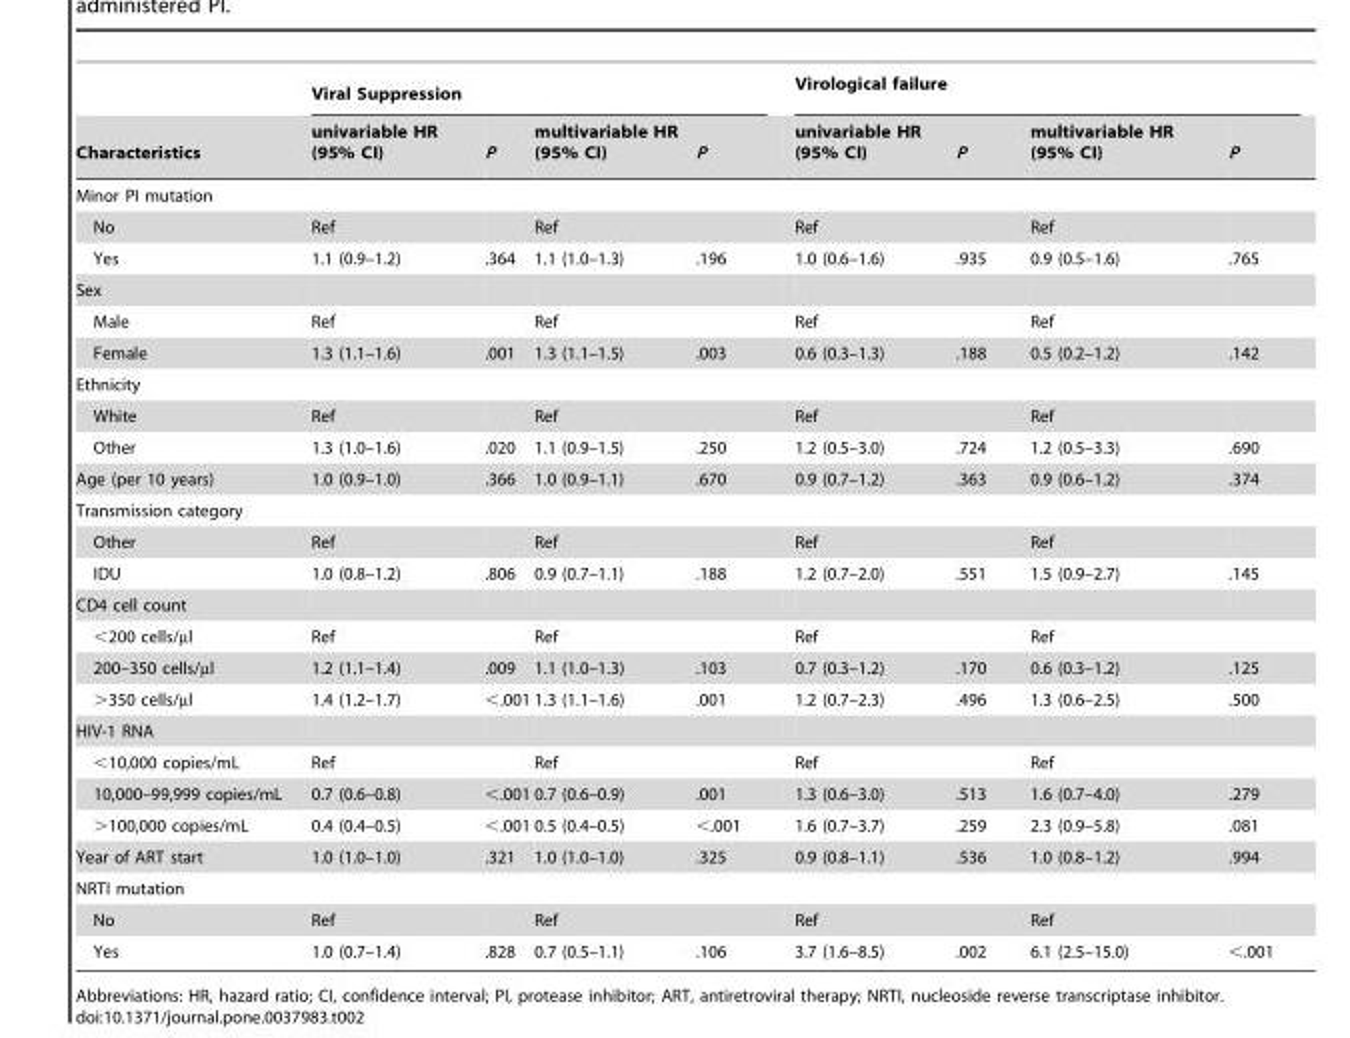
<table><thead><tr><td rowspan="2">Characteristics</td><td colspan="4">Viral Suppression</td><td colspan="4">Virological failure</td></tr><tr><td>univariable HR (95% CI)</td><td>P</td><td>multivariable HR (95% CI)</td><td>P</td><td>univariable HR (95% CI)</td><td>P</td><td>multivariable HR (95% CI)</td><td>P</td></tr></thead><tbody><tr><td colspan="9">Minor PI mutation</td></tr><tr><td>No</td><td>Ref</td><td></td><td>Ref</td><td></td><td>Ref</td><td></td><td>Ref</td><td></td></tr><tr><td>Yes</td><td>1.1 (0.9–1.2)</td><td>.364</td><td>1.1 (1.0–1.3)</td><td>.196</td><td>1.0 (0.6–1.6)</td><td>.935</td><td>0.9 (0.5–1.6)</td><td>.765</td></tr><tr><td colspan="9">Sex</td></tr><tr><td>Male</td><td>Ref</td><td></td><td>Ref</td><td></td><td>Ref</td><td></td><td>Ref</td><td></td></tr><tr><td>Female</td><td>1.3 (1.1–1.6)</td><td>.001</td><td>1.3 (1.1–1.5)</td><td>.003</td><td>0.6 (0.3–1.3)</td><td>.188</td><td>0.5 (0.2–1.2)</td><td>.142</td></tr><tr><td colspan="9">Ethnicity</td></tr><tr><td>White</td><td>Ref</td><td></td><td>Ref</td><td></td><td>Ref</td><td></td><td>Ref</td><td></td></tr><tr><td>Other</td><td>1.3 (1.0–1.6)</td><td>.020</td><td>1.1 (0.9–1.5)</td><td>.250</td><td>1.2 (0.5–3.0)</td><td>.724</td><td>1.2 (0.5–3.3)</td><td>.690</td></tr><tr><td>Age (per 10 years)</td><td>1.0 (0.9–1.0)</td><td>.366</td><td>1.0 (0.9–1.1)</td><td>.670</td><td>0.9 (0.7–1.2)</td><td>.363</td><td>0.9 (0.6–1.2)</td><td>.374</td></tr><tr><td colspan="9">Transmission category</td></tr><tr><td>Other</td><td>Ref</td><td></td><td>Ref</td><td></td><td>Ref</td><td></td><td>Ref</td><td></td></tr><tr><td>IDU</td><td>1.0 (0.8–1.2)</td><td>.806</td><td>0.9 (0.7–1.1)</td><td>.188</td><td>1.2 (0.7–2.0)</td><td>.551</td><td>1.5 (0.9–2.7)</td><td>.145</td></tr><tr><td colspan="9">CD4 cell count</td></tr><tr><td>&lt;200 cells/µl</td><td>Ref</td><td></td><td>Ref</td><td></td><td>Ref</td><td></td><td>Ref</td><td></td></tr><tr><td>200–350 cells/µl</td><td>1.2 (1.1–1.4)</td><td>.009</td><td>1.1 (1.0–1.3)</td><td>.103</td><td>0.7 (0.3–1.2)</td><td>.170</td><td>0.6 (0.3–1.2)</td><td>.125</td></tr><tr><td>&gt;350 cells/µl</td><td>1.4 (1.2–1.7)</td><td>&lt;.001</td><td>1.3 (1.1–1.6)</td><td>.001</td><td>1.2 (0.7–2.3)</td><td>.496</td><td>1.3 (0.6–2.5)</td><td>.500</td></tr><tr><td colspan="9">HIV-1 RNA</td></tr><tr><td>&lt;10,000 copies/mL</td><td>Ref</td><td></td><td>Ref</td><td></td><td>Ref</td><td></td><td>Ref</td><td></td></tr><tr><td>10,000–99,999 copies/mL</td><td>0.7 (0.6–0.8)</td><td>&lt;.001</td><td>0.7 (0.6–0.9)</td><td>.001</td><td>1.3 (0.6–3.0)</td><td>.513</td><td>1.6 (0.7–4.0)</td><td>.279</td></tr><tr><td>&gt;100,000 copies/mL</td><td>0.4 (0.4–0.5)</td><td>&lt;.001</td><td>0.5 (0.4–0.5)</td><td>&lt;.001</td><td>1.6 (0.7–3.7)</td><td>.259</td><td>2.3 (0.9–5.8)</td><td>.081</td></tr><tr><td>Year of ART start</td><td>1.0 (1.0–1.0)</td><td>.321</td><td>1.0 (1.0–1.0)</td><td>.325</td><td>0.9 (0.8–1.1)</td><td>.536</td><td>1.0 (0.8–1.2)</td><td>.994</td></tr><tr><td colspan="9">NRTI mutation</td></tr><tr><td>No</td><td>Ref</td><td></td><td>Ref</td><td></td><td>Ref</td><td></td><td>Ref</td><td></td></tr><tr><td>Yes</td><td>1.0 (0.7–1.4)</td><td>.828</td><td>0.7 (0.5–1.1)</td><td>.106</td><td>3.7 (1.6–8.5)</td><td>.002</td><td>6.1 (2.5–15.0)</td><td>&lt;.001</td></tr></tbody></table>